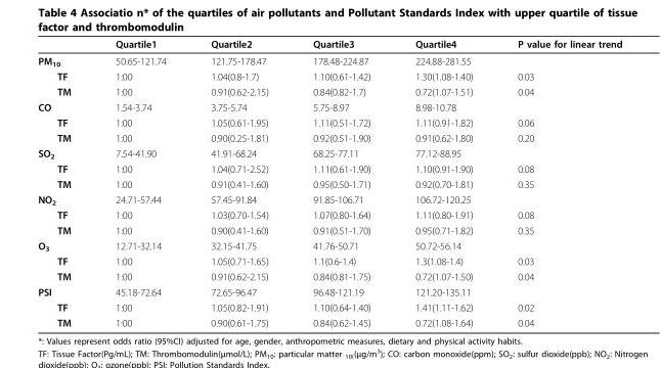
<table><thead><tr><td></td><td>Quartile1</td><td>Quartile2</td><td>Quartile3</td><td>Quartile4</td><td>P value for linear trend</td></tr></thead><tbody><tr><td>PM<sub>10</sub></td><td>50.65-121.74</td><td>121.75-178.47</td><td>178.48-224.87</td><td>224.88-281.55</td><td></td></tr><tr><td>TF</td><td>1:00</td><td>1.04(0.8-1.7)</td><td>1.10(0.61-1.42)</td><td>1.30(1.08-1.40)</td><td>0.03</td></tr><tr><td>TM</td><td>1:00</td><td>0.91(0.62-2.15)</td><td>0.84(0.82-1.7)</td><td>0.72(1.07-1.51)</td><td>0.04</td></tr><tr><td>CO</td><td>1.54-3.74</td><td>3.75-5.74</td><td>5.75-8.97</td><td>8.98-10.78</td><td></td></tr><tr><td>TF</td><td>1:00</td><td>1.05(0.61-1.95)</td><td>1.11(0.51-1.72)</td><td>1.11(0.91-1.82)</td><td>0.06</td></tr><tr><td>TM</td><td>1:00</td><td>0.90(0.25-1.81)</td><td>0.92(0.51-1.90)</td><td>0.91(0.62-1.80)</td><td>0.20</td></tr><tr><td>SO<sub>2</sub></td><td>7.54-41.90</td><td>41.91-68.24</td><td>68.25-77.11</td><td>77.12-88.95</td><td></td></tr><tr><td>TF</td><td>1:00</td><td>1.04(0.71-2.52)</td><td>1.11(0.61-1.90)</td><td>1.10(0.91-1.90)</td><td>0.08</td></tr><tr><td>TM</td><td>1:00</td><td>0.91(0.41-1.60)</td><td>0.95(0.50-1.71)</td><td>0.92(0.70-1.81)</td><td>0.35</td></tr><tr><td>NO<sub>2</sub></td><td>24.71-57.44</td><td>57.45-91.84</td><td>91.85-106.71</td><td>106.72-120.25</td><td></td></tr><tr><td>TF</td><td>1:00</td><td>1.03(0.70-1.54)</td><td>1.07(0.80-1.64)</td><td>1.11(0.80-1.91)</td><td>0.08</td></tr><tr><td>TM</td><td>1:00</td><td>0.90(0.41-1.60)</td><td>0.91(0.51-1.70)</td><td>0.95(0.71-1.82)</td><td>0.35</td></tr><tr><td>O<sub>3</sub></td><td>12.71-32.14</td><td>32.15-41.75</td><td>41.76-50.71</td><td>50.72-56.14</td><td></td></tr><tr><td>TF</td><td>1:00</td><td>1.05(0.71-1.65)</td><td>1.1(0.6-1.4)</td><td>1.3(1.08-1.4)</td><td>0.03</td></tr><tr><td>TM</td><td>1:00</td><td>0.91(0.62-2.15)</td><td>0.84(0.81-1.75)</td><td>0.72(1.07-1.50)</td><td>0.04</td></tr><tr><td>PSI</td><td>45.18-72.64</td><td>72.65-96.47</td><td>96.48-121.19</td><td>121.20-135.11</td><td></td></tr><tr><td>TF</td><td>1:00</td><td>1.05(0.82-1.91)</td><td>1.10(0.64-1.40)</td><td>1.41(1.11-1.62)</td><td>0.02</td></tr><tr><td>TM</td><td>1:00</td><td>0.90(0.61-1.75)</td><td>0.84(0.62-1.45)</td><td>0.72(1.08-1.64)</td><td>0.04</td></tr></tbody></table>